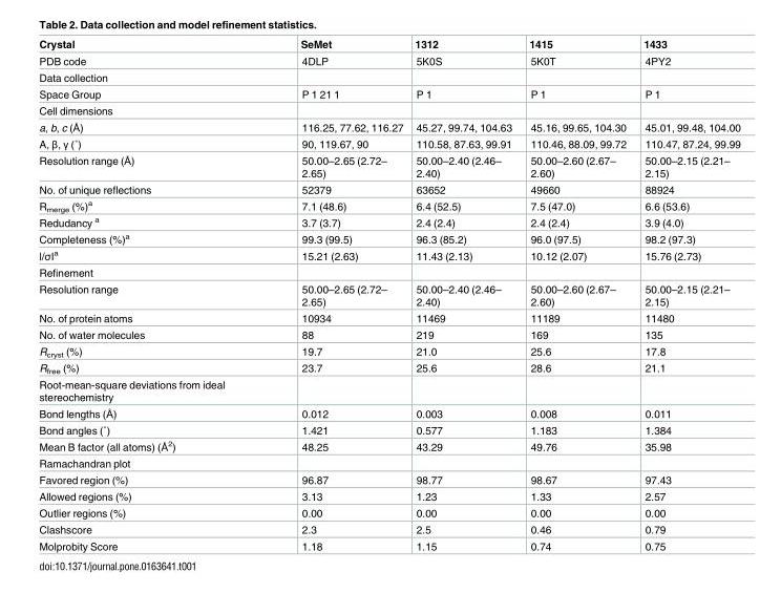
<table><thead><tr><td>Crystal</td><td>SeMet</td><td>1312</td><td>1415</td><td>1433</td></tr></thead><tbody><tr><td>PDB code</td><td>4DLP</td><td>5K0S</td><td>5K0T</td><td>4PY2</td></tr><tr><td colspan="5">Data collection</td></tr><tr><td>Space Group</td><td>P 1 21 1</td><td>P 1</td><td>P 1</td><td>P 1</td></tr><tr><td colspan="5">Cell dimensions</td></tr><tr><td>a, b, c (Å)</td><td>116.25, 77.62, 116.27</td><td>45.27, 99.74, 104.63</td><td>45.16, 99.65, 104.30</td><td>45.01, 99.48, 104.00</td></tr><tr><td>A, β, γ (˚)</td><td>90, 119.67, 90</td><td>110.58, 87.63, 99.91</td><td>110.46, 88.09, 99.72</td><td>110.47, 87.24, 99.99</td></tr><tr><td>Resolution range (Å)</td><td>50.00–2.65 (2.72– 2.65)</td><td>50.00–2.40 (2.46– 2.40)</td><td>50.00–2.60 (2.67– 2.60)</td><td>50.00–2.15 (2.21– 2.15)</td></tr><tr><td>No. of unique reflections</td><td>52379</td><td>63652</td><td>49660</td><td>88924</td></tr><tr><td>R<sub>merge</sub> (%)<sup>a</sup></td><td>7.1 (48.6)</td><td>6.4 (52.5)</td><td>7.5 (47.0)</td><td>6.6 (53.6)</td></tr><tr><td>Redudancy <sup>a</sup></td><td>3.7 (3.7)</td><td>2.4 (2.4)</td><td>2.4 (2.4)</td><td>3.9 (4.0)</td></tr><tr><td>Completeness (%)<sup>a</sup></td><td>99.3 (99.5)</td><td>96.3 (85.2)</td><td>96.0 (97.5)</td><td>98.2 (97.3)</td></tr><tr><td>l/σI<sup>a</sup></td><td>15.21 (2.63)</td><td>11.43 (2.13)</td><td>10.12 (2.07)</td><td>15.76 (2.73)</td></tr><tr><td colspan="5">Refinement</td></tr><tr><td>Resolution range</td><td>50.00–2.65 (2.72– 2.65)</td><td>50.00–2.40 (2.46– 2.40)</td><td>50.00–2.60 (2.67– 2.60)</td><td>50.00–2.15 (2.21– 2.15)</td></tr><tr><td>No. of protein atoms</td><td>10934</td><td>11469</td><td>11189</td><td>11480</td></tr><tr><td>No. of water molecules</td><td>88</td><td>219</td><td>169</td><td>135</td></tr><tr><td>R<sub>cryst</sub> (%)</td><td>19.7</td><td>21.0</td><td>25.6</td><td>17.8</td></tr><tr><td>R<sub>free</sub> (%)</td><td>23.7</td><td>25.6</td><td>28.6</td><td>21.1</td></tr><tr><td colspan="5">Root-mean-square deviations from ideal stereochemistry</td></tr><tr><td>Bond lengths (Å)</td><td>0.012</td><td>0.003</td><td>0.008</td><td>0.011</td></tr><tr><td>Bond angles (˚)</td><td>1.421</td><td>0.577</td><td>1.183</td><td>1.384</td></tr><tr><td>Mean B factor (all atoms) (Å<sup>2</sup>)</td><td>48.25</td><td>43.29</td><td>49.76</td><td>35.98</td></tr><tr><td colspan="5">Ramachandran plot</td></tr><tr><td>Favored region (%)</td><td>96.87</td><td>98.77</td><td>98.67</td><td>97.43</td></tr><tr><td>Allowed regions (%)</td><td>3.13</td><td>1.23</td><td>1.33</td><td>2.57</td></tr><tr><td>Outlier regions (%)</td><td>0.00</td><td>0.00</td><td>0.00</td><td>0.00</td></tr><tr><td>Clashscore</td><td>2.3</td><td>2.5</td><td>0.46</td><td>0.79</td></tr><tr><td>Molprobity Score</td><td>1.18</td><td>1.15</td><td>0.74</td><td>0.75</td></tr></tbody></table>